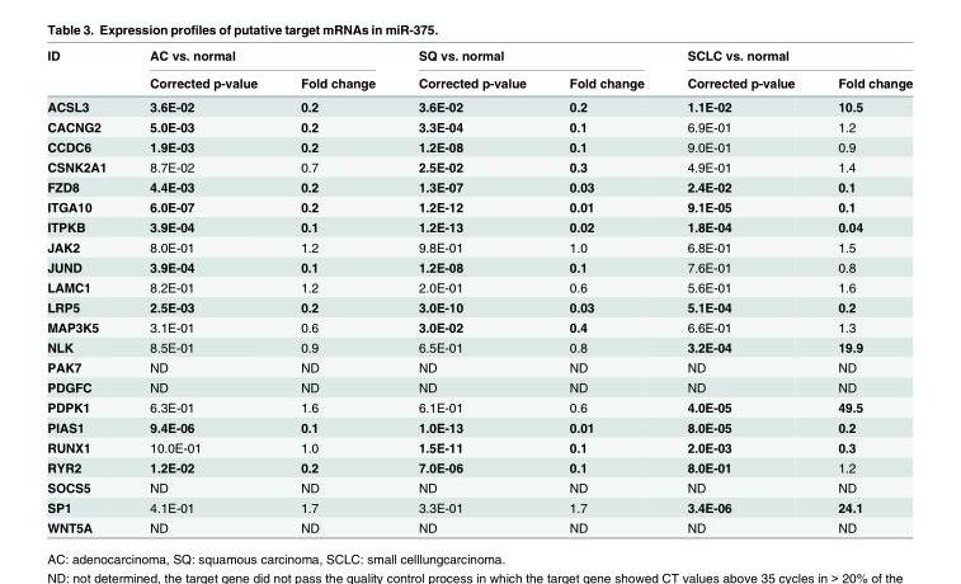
<table><thead><tr><td rowspan="2">ID</td><td colspan="2">AC vs. normal</td><td colspan="2">SQ vs. normal</td><td colspan="2">SCLC vs. normal</td></tr><tr><td>Corrected p-value</td><td>Fold change</td><td>Corrected p-value</td><td>Fold change</td><td>Corrected p-value</td><td>Fold change</td></tr></thead><tbody><tr><td>ACSL3</td><td>3.6E-02</td><td>0.2</td><td>3.6E-02</td><td>0.2</td><td>1.1E-02</td><td>10.5</td></tr><tr><td>CACNG2</td><td>5.0E-03</td><td>0.2</td><td>3.3E-04</td><td>0.1</td><td>6.9E-01</td><td>1.2</td></tr><tr><td>CCDC6</td><td>1.9E-03</td><td>0.2</td><td>1.2E-08</td><td>0.1</td><td>9.0E-01</td><td>0.9</td></tr><tr><td>CSNK2A1</td><td>8.7E-02</td><td>0.7</td><td>2.5E-02</td><td>0.3</td><td>4.9E-01</td><td>1.4</td></tr><tr><td>FZD8</td><td>4.4E-03</td><td>0.2</td><td>1.3E-07</td><td>0.03</td><td>2.4E-02</td><td>0.1</td></tr><tr><td>ITGA10</td><td>6.0E-07</td><td>0.2</td><td>1.2E-12</td><td>0.01</td><td>9.1E-05</td><td>0.1</td></tr><tr><td>ITPKB</td><td>3.9E-04</td><td>0.1</td><td>1.2E-13</td><td>0.02</td><td>1.8E-04</td><td>0.04</td></tr><tr><td>JAK2</td><td>8.0E-01</td><td>1.2</td><td>9.8E-01</td><td>1.0</td><td>6.8E-01</td><td>1.5</td></tr><tr><td>JUND</td><td>3.9E-04</td><td>0.1</td><td>1.2E-08</td><td>0.1</td><td>7.6E-01</td><td>0.8</td></tr><tr><td>LAMC1</td><td>8.2E-01</td><td>1.2</td><td>2.0E-01</td><td>0.6</td><td>5.6E-01</td><td>1.6</td></tr><tr><td>LRP5</td><td>2.5E-03</td><td>0.2</td><td>3.0E-10</td><td>0.03</td><td>5.1E-04</td><td>0.2</td></tr><tr><td>MAP3K5</td><td>3.1E-01</td><td>0.6</td><td>3.0E-02</td><td>0.4</td><td>6.6E-01</td><td>1.3</td></tr><tr><td>NLK</td><td>8.5E-01</td><td>0.9</td><td>6.5E-01</td><td>0.8</td><td>3.2E-04</td><td>19.9</td></tr><tr><td>PAK7</td><td>ND</td><td>ND</td><td>ND</td><td>ND</td><td>ND</td><td>ND</td></tr><tr><td>PDGFC</td><td>ND</td><td>ND</td><td>ND</td><td>ND</td><td>ND</td><td>ND</td></tr><tr><td>PDPK1</td><td>6.3E-01</td><td>1.6</td><td>6.1E-01</td><td>0.6</td><td>4.0E-05</td><td>49.5</td></tr><tr><td>PIAS1</td><td>9.4E-06</td><td>0.1</td><td>1.0E-13</td><td>0.01</td><td>8.0E-05</td><td>0.2</td></tr><tr><td>RUNX1</td><td>10.0E-01</td><td>1.0</td><td>1.5E-11</td><td>0.1</td><td>2.0E-03</td><td>0.3</td></tr><tr><td>RYR2</td><td>1.2E-02</td><td>0.2</td><td>7.0E-06</td><td>0.1</td><td>8.0E-01</td><td>1.2</td></tr><tr><td>SOCS5</td><td>ND</td><td>ND</td><td>ND</td><td>ND</td><td>ND</td><td>ND</td></tr><tr><td>SP1</td><td>4.1E-01</td><td>1.7</td><td>3.3E-01</td><td>1.7</td><td>3.4E-06</td><td>24.1</td></tr><tr><td>WNT5A</td><td>ND</td><td>ND</td><td>ND</td><td>ND</td><td>ND</td><td>ND</td></tr></tbody></table>